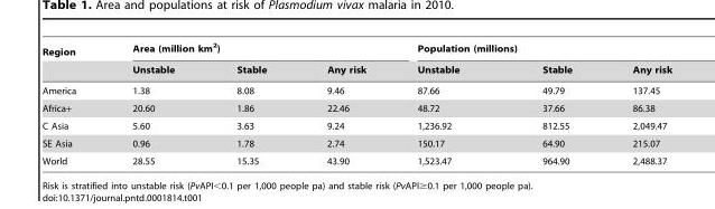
<table><thead><tr><td rowspan="2">Region</td><td colspan="3">Area (million km<sup>2</sup>)</td><td colspan="3">Population (millions)</td></tr><tr><td>Unstable</td><td>Stable</td><td>Any risk</td><td>Unstable</td><td>Stable</td><td>Any risk</td></tr></thead><tbody><tr><td>America</td><td>1.38</td><td>8.08</td><td>9.46</td><td>87.66</td><td>49.79</td><td>137.45</td></tr><tr><td>Africa+</td><td>20.60</td><td>1.86</td><td>22.46</td><td>48.72</td><td>37.66</td><td>86.38</td></tr><tr><td>C Asia</td><td>5.60</td><td>3.63</td><td>9.24</td><td>1,236.92</td><td>812.55</td><td>2,049.47</td></tr><tr><td>SE Asia</td><td>0.96</td><td>1.78</td><td>2.74</td><td>150.17</td><td>64.90</td><td>215.07</td></tr><tr><td>World</td><td>28.55</td><td>15.35</td><td>43.90</td><td>1,523.47</td><td>964.90</td><td>2,488.37</td></tr></tbody></table>